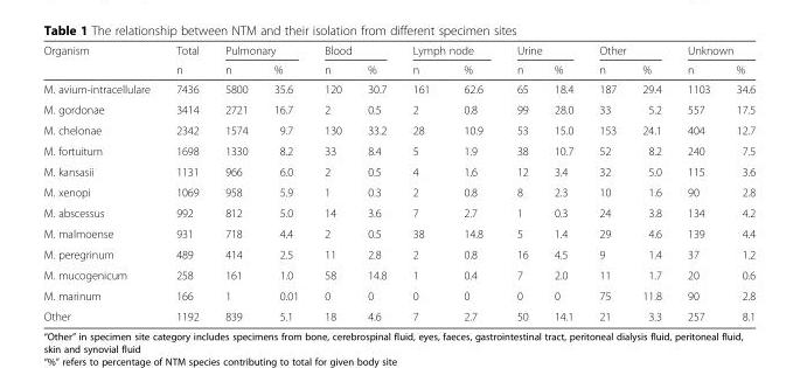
<table><thead><tr><td rowspan="2">Organism</td><td rowspan="2">Total n</td><td colspan="2">Pulmonary</td><td colspan="2">Blood</td><td colspan="2">Lymph node</td><td colspan="2">Urine</td><td colspan="2">Other</td><td colspan="2">Unknown</td></tr><tr><td>n</td><td>%</td><td>n</td><td>%</td><td>n</td><td>%</td><td>n</td><td>%</td><td>n</td><td>%</td><td>n</td><td>%</td></tr></thead><tbody><tr><td>M. avium-intracellulare</td><td>7436</td><td>5800</td><td>35.6</td><td>120</td><td>30.7</td><td>161</td><td>62.6</td><td>65</td><td>18.4</td><td>187</td><td>29.4</td><td>1103</td><td>34.6</td></tr><tr><td>M. gordonae</td><td>3414</td><td>2721</td><td>16.7</td><td>2</td><td>0.5</td><td>2</td><td>0.8</td><td>99</td><td>28.0</td><td>33</td><td>5.2</td><td>557</td><td>17.5</td></tr><tr><td>M. chelonae</td><td>2342</td><td>1574</td><td>9.7</td><td>130</td><td>33.2</td><td>28</td><td>10.9</td><td>53</td><td>15.0</td><td>153</td><td>24.1</td><td>404</td><td>12.7</td></tr><tr><td>M. fortuitum</td><td>1698</td><td>1330</td><td>8.2</td><td>33</td><td>8.4</td><td>5</td><td>1.9</td><td>38</td><td>10.7</td><td>52</td><td>8.2</td><td>240</td><td>7.5</td></tr><tr><td>M. kansasii</td><td>1131</td><td>966</td><td>6.0</td><td>2</td><td>0.5</td><td>4</td><td>1.6</td><td>12</td><td>3.4</td><td>32</td><td>5.0</td><td>115</td><td>3.6</td></tr><tr><td>M. xenopi</td><td>1069</td><td>958</td><td>5.9</td><td>1</td><td>0.3</td><td>2</td><td>0.8</td><td>8</td><td>2.3</td><td>10</td><td>1.6</td><td>90</td><td>2.8</td></tr><tr><td>M. abscessus</td><td>992</td><td>812</td><td>5.0</td><td>14</td><td>3.6</td><td>7</td><td>2.7</td><td>1</td><td>0.3</td><td>24</td><td>3.8</td><td>134</td><td>4.2</td></tr><tr><td>M. malmoense</td><td>931</td><td>718</td><td>4.4</td><td>2</td><td>0.5</td><td>38</td><td>14.8</td><td>5</td><td>1.4</td><td>29</td><td>4.6</td><td>139</td><td>4.4</td></tr><tr><td>M. peregrinum</td><td>489</td><td>414</td><td>2.5</td><td>11</td><td>2.8</td><td>2</td><td>0.8</td><td>16</td><td>4.5</td><td>9</td><td>1.4</td><td>37</td><td>1.2</td></tr><tr><td>M. mucogenicum</td><td>258</td><td>161</td><td>1.0</td><td>58</td><td>14.8</td><td>1</td><td>0.4</td><td>7</td><td>2.0</td><td>11</td><td>1.7</td><td>20</td><td>0.6</td></tr><tr><td>M. marinum</td><td>166</td><td>1</td><td>0.01</td><td>0</td><td>0</td><td>0</td><td>0</td><td>0</td><td>0</td><td>75</td><td>11.8</td><td>90</td><td>2.8</td></tr><tr><td>Other</td><td>1192</td><td>839</td><td>5.1</td><td>18</td><td>4.6</td><td>7</td><td>2.7</td><td>50</td><td>14.1</td><td>21</td><td>3.3</td><td>257</td><td>8.1</td></tr></tbody></table>